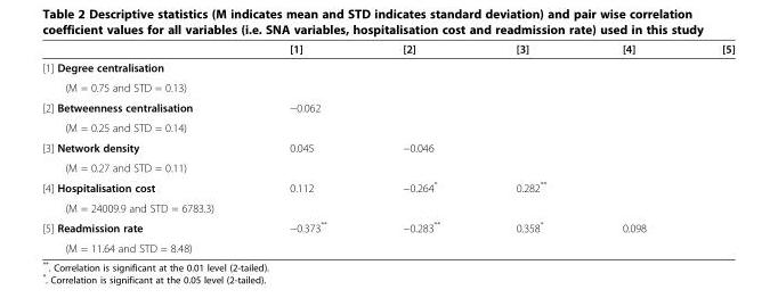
<table><thead><tr><td></td><td>[1]</td><td>[2]</td><td>[3]</td><td>[4]</td><td>[5]</td></tr></thead><tbody><tr><td colspan="6">[1] Degree centralisation</td></tr><tr><td colspan="6">(M = 0.75 and STD = 0.13)</td></tr><tr><td>[2] Betweenness centralisation</td><td>−0.062</td><td></td><td></td><td></td><td></td></tr><tr><td colspan="6">(M = 0.25 and STD = 0.14)</td></tr><tr><td>[3] Network density</td><td>0.045</td><td>−0.046</td><td></td><td></td><td></td></tr><tr><td colspan="6">(M = 0.27 and STD = 0.11)</td></tr><tr><td>[4] Hospitalisation cost</td><td>0.112</td><td>−0.264*</td><td>0.282**</td><td></td><td></td></tr><tr><td colspan="6">(M = 24009.9 and STD = 6783.3)</td></tr><tr><td>[5] Readmission rate</td><td>−0.373**</td><td>−0.283**</td><td>0.358*</td><td>0.098</td><td></td></tr><tr><td>(M = 11.64 and STD = 8.48)</td><td colspan="5"></td></tr></tbody></table>